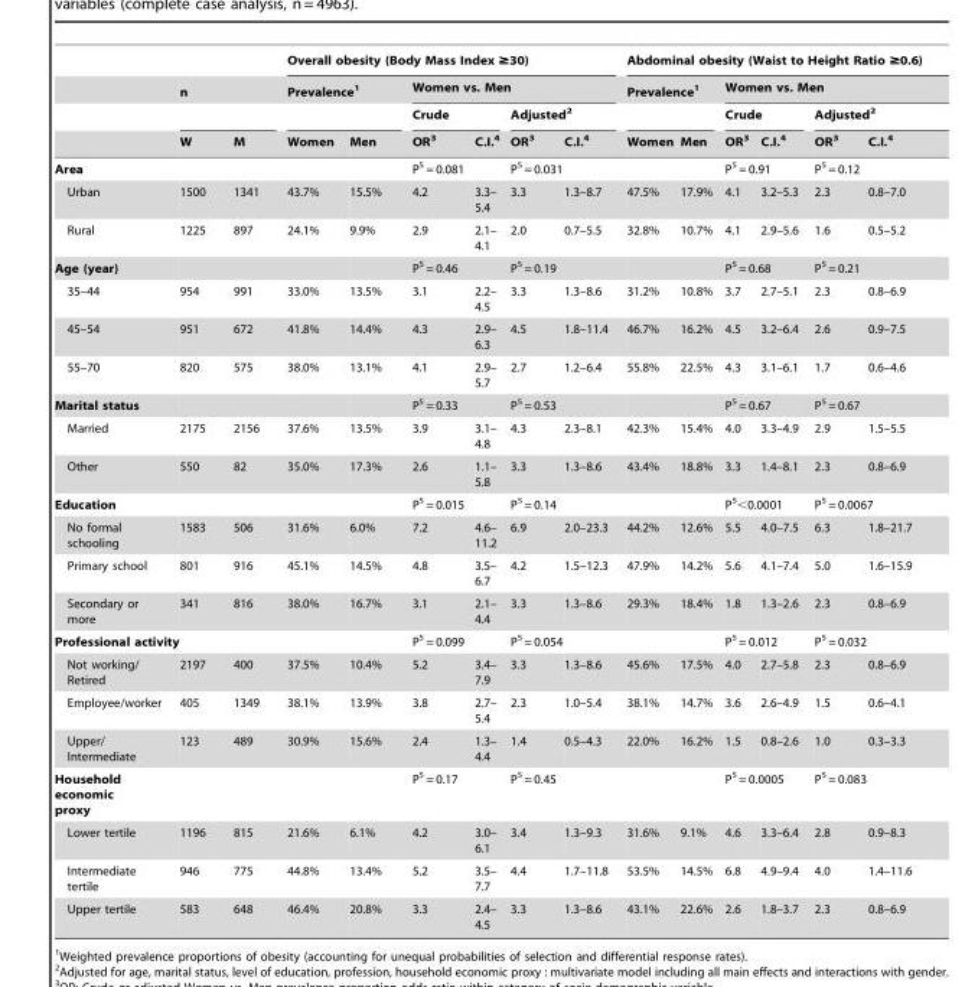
<table><thead><tr><td rowspan="4"></td><td></td><td></td><td colspan="6">Overall obesity (Body Mass Index ≥30)</td><td colspan="6">Abdominal obesity (Waist to Height Ratio ≥0.6)</td></tr><tr><td colspan="2">n</td><td colspan="2">Prevalence<sup>1</sup></td><td colspan="4">Women vs. Men</td><td colspan="2">Prevalence<sup>1</sup></td><td colspan="4">Women vs. Men</td></tr><tr><td rowspan="2">W</td><td rowspan="2">M</td><td rowspan="2">Women</td><td rowspan="2">Men</td><td colspan="2">Crude</td><td colspan="2">Adjusted<sup>2</sup></td><td rowspan="2">Women</td><td rowspan="2">Men</td><td colspan="2">Crude</td><td colspan="2">Adjusted<sup>2</sup></td></tr><tr><td>OR<sup>3</sup></td><td>C.I.<sup>4</sup></td><td>OR<sup>3</sup></td><td>C.I.<sup>4</sup></td><td>OR<sup>3</sup></td><td>C.I.<sup>4</sup></td><td>OR<sup>3</sup></td><td>C.I.<sup>4</sup></td></tr></thead><tbody><tr><td>Area</td><td></td><td></td><td></td><td></td><td colspan="2">P<sup>5</sup> = 0.081</td><td colspan="2">P<sup>5</sup> = 0.031</td><td></td><td></td><td colspan="2">P<sup>5</sup> = 0.91</td><td colspan="2">P<sup>5</sup> = 0.12</td></tr><tr><td>Urban</td><td>1500</td><td>1341</td><td>43.7%</td><td>15.5%</td><td>4.2</td><td>3.3– 5.4</td><td>3.3</td><td>1.3–8.7</td><td>47.5%</td><td>17.9%</td><td>4.1</td><td>3.2–5.3</td><td>2.3</td><td>0.8–7.0</td></tr><tr><td>Rural</td><td>1225</td><td>897</td><td>24.1%</td><td>9.9%</td><td>2.9</td><td>2.1– 4.1</td><td>2.0</td><td>0.7–5.5</td><td>32.8%</td><td>10.7%</td><td>4.1</td><td>2.9–5.6</td><td>1.6</td><td>0.5–5.2</td></tr><tr><td>Age (year)</td><td></td><td></td><td></td><td></td><td colspan="2">P<sup>5</sup> = 0.46</td><td colspan="2">P<sup>5</sup> = 0.19</td><td></td><td></td><td colspan="2">P<sup>5</sup> = 0.68</td><td colspan="2">P<sup>5</sup> = 0.21</td></tr><tr><td>35–44</td><td>954</td><td>991</td><td>33.0%</td><td>13.5%</td><td>3.1</td><td>2.2– 4.5</td><td>3.3</td><td>1.3–8.6</td><td>31.2%</td><td>10.8%</td><td>3.7</td><td>2.7–5.1</td><td>2.3</td><td>0.8–6.9</td></tr><tr><td>45–54</td><td>951</td><td>672</td><td>41.8%</td><td>14.4%</td><td>4.3</td><td>2.9– 6.3</td><td>4.5</td><td>1.8–11.4</td><td>46.7%</td><td>16.2%</td><td>4.5</td><td>3.2–6.4</td><td>2.6</td><td>0.9–7.5</td></tr><tr><td>55–70</td><td>820</td><td>575</td><td>38.0%</td><td>13.1%</td><td>4.1</td><td>2.9– 5.7</td><td>2.7</td><td>1.2–6.4</td><td>55.8%</td><td>22.5%</td><td>4.3</td><td>3.1–6.1</td><td>1.7</td><td>0.6–4.6</td></tr><tr><td>Marital status</td><td></td><td></td><td></td><td></td><td colspan="2">P<sup>5</sup> = 0.33</td><td colspan="2">P<sup>5</sup> = 0.53</td><td></td><td></td><td colspan="2">P<sup>5</sup> = 0.67</td><td colspan="2">P<sup>5</sup> = 0.67</td></tr><tr><td>Married</td><td>2175</td><td>2156</td><td>37.6%</td><td>13.5%</td><td>3.9</td><td>3.1– 4.8</td><td>4.3</td><td>2.3–8.1</td><td>42.3%</td><td>15.4%</td><td>4.0</td><td>3.3–4.9</td><td>2.9</td><td>1.5–5.5</td></tr><tr><td>Other</td><td>550</td><td>82</td><td>35.0%</td><td>17.3%</td><td>2.6</td><td>1.1– 5.8</td><td>3.3</td><td>1.3–8.6</td><td>43.4%</td><td>18.8%</td><td>3.3</td><td>1.4–8.1</td><td>2.3</td><td>0.8–6.9</td></tr><tr><td>Education</td><td></td><td></td><td></td><td></td><td colspan="2">P<sup>5</sup> = 0.015</td><td colspan="2">P<sup>5</sup> = 0.14</td><td></td><td></td><td colspan="2">P<sup>5</sup>&lt;0.0001</td><td colspan="2">P<sup>5</sup> = 0.0067</td></tr><tr><td>No formal schooling</td><td>1583</td><td>506</td><td>31.6%</td><td>6.0%</td><td>7.2</td><td>4.6– 11.2</td><td>6.9</td><td>2.0–23.3</td><td>44.2%</td><td>12.6%</td><td>5.5</td><td>4.0–7.5</td><td>6.3</td><td>1.8–21.7</td></tr><tr><td>Primary school</td><td>801</td><td>916</td><td>45.1%</td><td>14.5%</td><td>4.8</td><td>3.5– 6.7</td><td>4.2</td><td>1.5–12.3</td><td>47.9%</td><td>14.2%</td><td>5.6</td><td>4.1–7.4</td><td>5.0</td><td>1.6–15.9</td></tr><tr><td>Secondary or more</td><td>341</td><td>816</td><td>38.0%</td><td>16.7%</td><td>3.1</td><td>2.1– 4.4</td><td>3.3</td><td>1.3–8.6</td><td>29.3%</td><td>18.4%</td><td>1.8</td><td>1.3–2.6</td><td>2.3</td><td>0.8–6.9</td></tr><tr><td>Professional activity</td><td></td><td></td><td></td><td></td><td colspan="2">P<sup>5</sup> = 0.099</td><td colspan="2">P<sup>5</sup> = 0.054</td><td></td><td></td><td colspan="2">P<sup>5</sup> = 0.012</td><td colspan="2">P<sup>5</sup> = 0.032</td></tr><tr><td>Not working/ Retired</td><td>2197</td><td>400</td><td>37.5%</td><td>10.4%</td><td>5.2</td><td>3.4– 7.9</td><td>3.3</td><td>1.3–8.6</td><td>45.6%</td><td>17.5%</td><td>4.0</td><td>2.7–5.8</td><td>2.3</td><td>0.8–6.9</td></tr><tr><td>Employee/worker</td><td>405</td><td>1349</td><td>38.1%</td><td>13.9%</td><td>3.8</td><td>2.7– 5.4</td><td>2.3</td><td>1.0–5.4</td><td>38.1%</td><td>14.7%</td><td>3.6</td><td>2.6–4.9</td><td>1.5</td><td>0.6–4.1</td></tr><tr><td>Upper/ Intermediate</td><td>123</td><td>489</td><td>30.9%</td><td>15.6%</td><td>2.4</td><td>1.3– 4.4</td><td>1.4</td><td>0.5–4.3</td><td>22.0%</td><td>16.2%</td><td>1.5</td><td>0.8–2.6</td><td>1.0</td><td>0.3–3.3</td></tr><tr><td>Household economic proxy</td><td></td><td></td><td></td><td></td><td colspan="2">P<sup>5</sup> = 0.17</td><td colspan="2">P<sup>5</sup> = 0.45</td><td></td><td></td><td colspan="2">P<sup>5</sup> = 0.0005</td><td colspan="2">P<sup>5</sup> = 0.083</td></tr><tr><td>Lower tertile</td><td>1196</td><td>815</td><td>21.6%</td><td>6.1%</td><td>4.2</td><td>3.0– 6.1</td><td>3.4</td><td>1.3–9.3</td><td>31.6%</td><td>9.1%</td><td>4.6</td><td>3.3–6.4</td><td>2.8</td><td>0.9–8.3</td></tr><tr><td>Intermediate tertile</td><td>946</td><td>775</td><td>44.8%</td><td>13.4%</td><td>5.2</td><td>3.5– 7.7</td><td>4.4</td><td>1.7–11.8</td><td>53.5%</td><td>14.5%</td><td>6.8</td><td>4.9–9.4</td><td>4.0</td><td>1.4–11.6</td></tr><tr><td>Upper tertile</td><td>583</td><td>648</td><td>46.4%</td><td>20.8%</td><td>3.3</td><td>2.4– 4.5</td><td>3.3</td><td>1.3–8.6</td><td>43.1%</td><td>22.6%</td><td>2.6</td><td>1.8–3.7</td><td>2.3</td><td>0.8–6.9</td></tr></tbody></table>